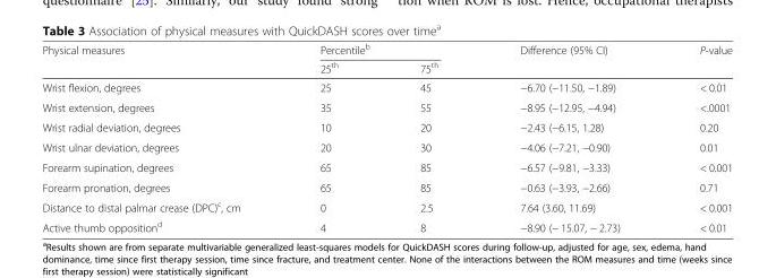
<table><thead><tr><td rowspan="2">Physical measures</td><td colspan="2">Percentile<sup>b</sup></td><td rowspan="2">Difference (95% CI)</td><td rowspan="2">P-value</td></tr><tr><td>25<sup>th</sup></td><td>75<sup>th</sup></td></tr></thead><tbody><tr><td>Wrist flexion, degrees</td><td>25</td><td>45</td><td>−6.70 (−11.50, −1.89)</td><td>&lt; 0.01</td></tr><tr><td>Wrist extension, degrees</td><td>35</td><td>55</td><td>−8.95 (−12.95, −4.94)</td><td>&lt;.0001</td></tr><tr><td>Wrist radial deviation, degrees</td><td>10</td><td>20</td><td>−2.43 (−6.15, 1.28)</td><td>0.20</td></tr><tr><td>Wrist ulnar deviation, degrees</td><td>20</td><td>30</td><td>−4.06 (−7.21, −0.90)</td><td>0.01</td></tr><tr><td>Forearm supination, degrees</td><td>65</td><td>85</td><td>−6.57 (−9.81, −3.33)</td><td>&lt; 0.001</td></tr><tr><td>Forearm pronation, degrees</td><td>65</td><td>85</td><td>−0.63 (−3.93, −2.66)</td><td>0.71</td></tr><tr><td>Distance to distal palmar crease (DPC)<sup>c</sup>, cm</td><td>0</td><td>2.5</td><td>7.64 (3.60, 11.69)</td><td>&lt; 0.001</td></tr><tr><td>Active thumb opposition<sup>d</sup></td><td>4</td><td>8</td><td>−8.90 (− 15.07, − 2.73)</td><td>&lt; 0.01</td></tr></tbody></table>